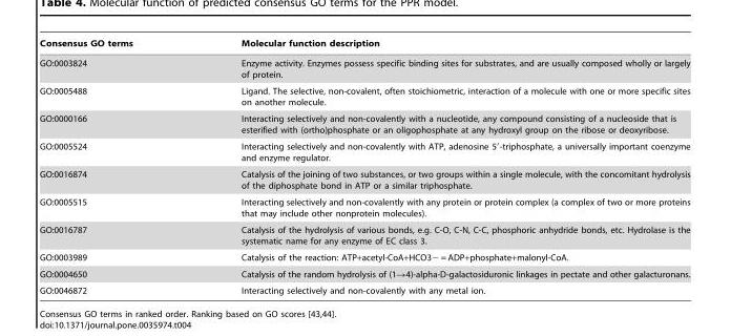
<table><thead><tr><td>Consensus GO terms</td><td>Molecular function description</td></tr></thead><tbody><tr><td>GO:0003824</td><td>Enzyme activity. Enzymes possess specific binding sites for substrates, and are usually composed wholly or largely of protein.</td></tr><tr><td>GO:0005488</td><td>Ligand. The selective, non-covalent, often stoichiometric, interaction of a molecule with one or more specific sites on another molecule.</td></tr><tr><td>GO:0000166</td><td>Interacting selectively and non-covalently with a nucleotide, any compound consisting of a nucleoside that is esterified with (ortho)phosphate or an oligophosphate at any hydroxyl group on the ribose or deoxyribose.</td></tr><tr><td>GO:0005524</td><td>Interacting selectively and non-covalently with ATP, adenosine 5′-triphosphate, a universally important coenzyme and enzyme regulator.</td></tr><tr><td>GO:0016874</td><td>Catalysis of the joining of two substances, or two groups within a single molecule, with the concomitant hydrolysis of the diphosphate bond in ATP or a similar triphosphate.</td></tr><tr><td>GO:0005515</td><td>Interacting selectively and non-covalently with any protein or protein complex (a complex of two or more proteins that may include other nonprotein molecules).</td></tr><tr><td>GO:0016787</td><td>Catalysis of the hydrolysis of various bonds, e.g. C-O, C-N, C-C, phosphoric anhydride bonds, etc. Hydrolase is the systematic name for any enzyme of EC class 3.</td></tr><tr><td>GO:0003989</td><td>Catalysis of the reaction: ATP+acetyl-CoA+HCO3− = ADP+phosphate+malonyl-CoA.</td></tr><tr><td>GO:0004650</td><td>Catalysis of the random hydrolysis of (1→4)-alpha-D-galactosiduronic linkages in pectate and other galacturonans.</td></tr><tr><td>GO:0046872</td><td>Interacting selectively and non-covalently with any metal ion.</td></tr></tbody></table>